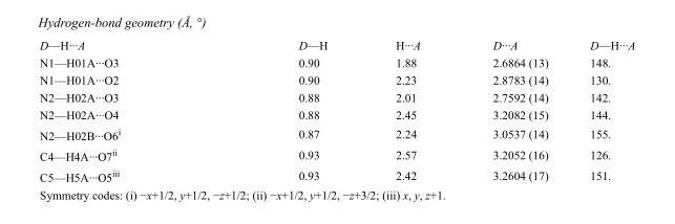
<table><tbody><tr><td>D—H···A</td><td>D—H</td><td>H···A</td><td>D···A</td><td>D—H···A</td></tr><tr><td>N1—H01A···O3</td><td>0.90</td><td>1.88</td><td>2.6864 (13)</td><td>148.</td></tr><tr><td>N1—H01A···O2</td><td>0.90</td><td>2.23</td><td>2.8783 (14)</td><td>130.</td></tr><tr><td>N2—H02A···O3</td><td>0.88</td><td>2.01</td><td>2.7592 (14)</td><td>142.</td></tr><tr><td>N2—H02A···O4</td><td>0.88</td><td>2.45</td><td>3.2082 (15)</td><td>144.</td></tr><tr><td>N2—H02B···O6<sup>i</sup></td><td>0.87</td><td>2.24</td><td>3.0537 (14)</td><td>155.</td></tr><tr><td>C4—H4A···O7<sup>ii</sup></td><td>0.93</td><td>2.57</td><td>3.2052 (16)</td><td>126.</td></tr><tr><td>C5—H5A···O5<sup>iii</sup></td><td>0.93</td><td>2.42</td><td>3.2604 (17)</td><td>151.</td></tr></tbody></table>